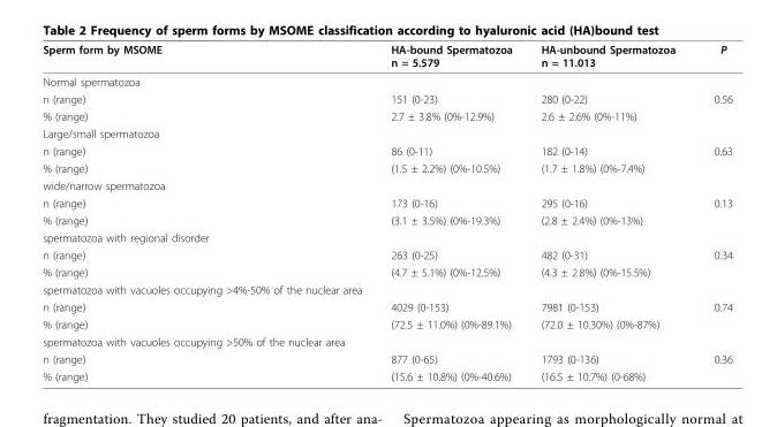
<table><thead><tr><td>Sperm form by MSOME</td><td>HA-bound Spermatozoa n = 5.579</td><td>HA-unbound Spermatozoa n = 11.013</td><td>P</td></tr></thead><tbody><tr><td colspan="4">Normal spermatozoa</td></tr><tr><td>n (range)</td><td>151 (0-23)</td><td>280 (0-22)</td><td>0.56</td></tr><tr><td>% (range)</td><td>2.7 ± 3.8% (0%-12.9%)</td><td>2.6 ± 2.6% (0%-11%)</td><td></td></tr><tr><td colspan="4">Large/small spermatozoa</td></tr><tr><td>n (range)</td><td>86 (0-11)</td><td>182 (0-14)</td><td>0.63</td></tr><tr><td>% (range)</td><td>(1.5 ± 2.2%) (0%-10.5%)</td><td>(1.7 ± 1.8%) (0%-7.4%)</td><td></td></tr><tr><td colspan="4">wide/narrow spermatozoa</td></tr><tr><td>n (range)</td><td>173 (0-16)</td><td>295 (0-16)</td><td>0.13</td></tr><tr><td>% (range)</td><td>(3.1 ± 3.5%) (0%-19.3%)</td><td>(2.8 ± 2.4%) (0%-13%)</td><td></td></tr><tr><td colspan="4">spermatozoa with regional disorder</td></tr><tr><td>n (range)</td><td>263 (0-25)</td><td>482 (0-31)</td><td>0.34</td></tr><tr><td>% (range)</td><td>(4.7 ± 5.1%) (0%-12.5%)</td><td>(4.3 ± 2.8%) (0%-15.5%)</td><td></td></tr><tr><td colspan="4">spermatozoa with vacuoles occupying &gt;4%-50% of the nuclear area</td></tr><tr><td>n (range)</td><td>4029 (0-153)</td><td>7981 (0-153)</td><td>0.74</td></tr><tr><td>% (range)</td><td>(72.5 ± 11.0%) (0%-89.1%)</td><td>(72.0 ± 10.30%) (0%-87%)</td><td></td></tr><tr><td colspan="4">spermatozoa with vacuoles occupying &gt;50% of the nuclear area</td></tr><tr><td>n (range)</td><td>877 (0-65)</td><td>1793 (0-136)</td><td>0.36</td></tr><tr><td>% (range)</td><td>(15.6 ± 10.8%) (0%-40.6%)</td><td>(16.5 ± 10.7%) (0-68%)</td><td></td></tr></tbody></table>